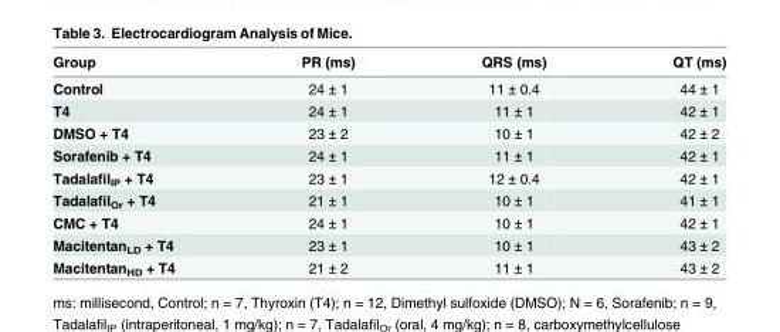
<table><thead><tr><td>Group</td><td>PR (ms)</td><td>QRS (ms)</td><td>QT (ms)</td></tr></thead><tbody><tr><td>Control</td><td>24 ± 1</td><td>11 ± 0.4</td><td>44 ± 1</td></tr><tr><td>T4</td><td>24 ± 1</td><td>11 ± 1</td><td>42 ± 1</td></tr><tr><td>DMSO + T4</td><td>23 ± 2</td><td>10 ± 1</td><td>42 ± 2</td></tr><tr><td>Sorafenib + T4</td><td>24 ± 1</td><td>11 ± 1</td><td>42 ± 1</td></tr><tr><td>Tadalafil<sub>IP</sub> + T4</td><td>23 ± 1</td><td>12 ± 0.4</td><td>42 ± 1</td></tr><tr><td>Tadalafil<sub>Or</sub> + T4</td><td>21 ± 1</td><td>10 ± 1</td><td>41 ± 1</td></tr><tr><td>CMC + T4</td><td>24 ± 1</td><td>10 ± 1</td><td>42 ± 1</td></tr><tr><td>Macitentan<sub>LD</sub> + T4</td><td>23 ± 1</td><td>10 ± 1</td><td>43 ± 2</td></tr><tr><td>Macitentan<sub>HD</sub> + T4</td><td>21 ± 2</td><td>11 ± 1</td><td>43 ± 2</td></tr></tbody></table>